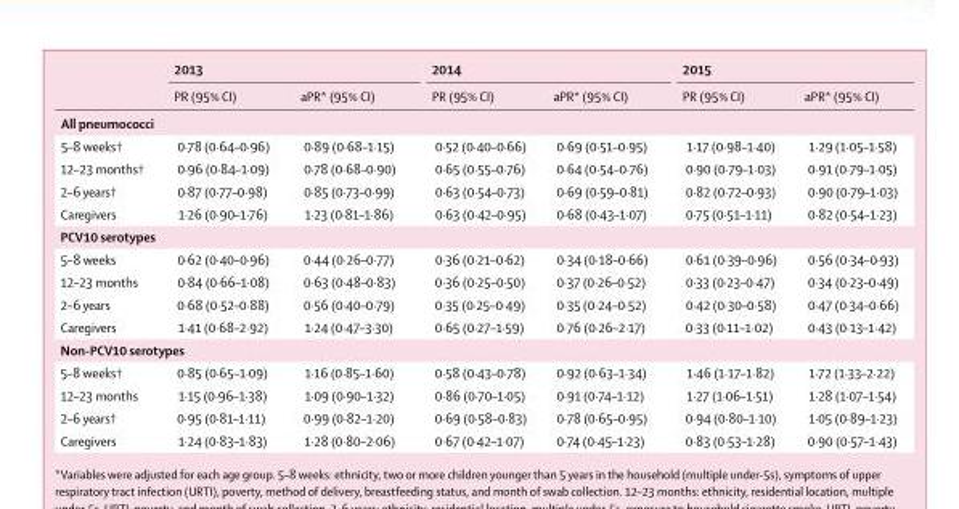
<table><thead><tr><td rowspan="2"></td><td colspan="2">2013</td><td colspan="2">2014</td><td colspan="2">2015</td></tr><tr><td>PR (95% CI)</td><td>aPR* (95% CI)</td><td>PR (95% CI)</td><td>aPR* (95% CI)</td><td>PR (95% CI)</td><td>aPR* (95% CI)</td></tr></thead><tbody><tr><td colspan="7">All pneumococci</td></tr><tr><td>5–8 weeks†</td><td>0·78 (0·64–0·96)</td><td>0·89 (0·68–1·15)</td><td>0·52 (0·40–0·66)</td><td>0·69 (0·51–0·95)</td><td>1·17 (0·98–1·40)</td><td>1·29 (1·05–1·58)</td></tr><tr><td>12–23 months†</td><td>0·96 (0·84–1·09)</td><td>0·78 (0·68–0·90)</td><td>0·65 (0·55–0·76)</td><td>0·64 (0·54–0·76)</td><td>0·90 (0·79–1·03)</td><td>0·91 (0·79–1·05)</td></tr><tr><td>2–6 years†</td><td>0·87 (0·77–0·98)</td><td>0·85 (0·73–0·99)</td><td>0·63 (0·54–0·73)</td><td>0·69 (0·59–0·81)</td><td>0·82 (0·72–0·93)</td><td>0·90 (0·79–1·03)</td></tr><tr><td>Caregivers</td><td>1·26 (0·90–1·76)</td><td>1·23 (0·81–1·86)</td><td>0·63 (0·42–0·95)</td><td>0·68 (0·43–1·07)</td><td>0·75 (0·51–1·11)</td><td>0·82 (0·54–1·23)</td></tr><tr><td colspan="7">PCV10 serotypes</td></tr><tr><td>5–8 weeks</td><td>0·62 (0·40–0·96)</td><td>0·44 (0·26–0·77)</td><td>0·36 (0·21–0·62)</td><td>0·34 (0·18–0·66)</td><td>0·61 (0·39–0·96)</td><td>0·56 (0·34–0·93)</td></tr><tr><td>12–23 months</td><td>0·84 (0·66–1·08)</td><td>0·63 (0·48–0·83)</td><td>0·36 (0·25–0·50)</td><td>0·37 (0·26–0·52)</td><td>0·33 (0·23–0·47)</td><td>0·34 (0·23–0·49)</td></tr><tr><td>2–6 years</td><td>0·68 (0·52–0·88)</td><td>0·56 (0·40–0·79)</td><td>0·35 (0·25–0·49)</td><td>0·35 (0·24–0·52)</td><td>0·42 (0·30–0·58)</td><td>0·47 (0·34–0·66)</td></tr><tr><td>Caregivers</td><td>1·41 (0·68–2·92)</td><td>1·24 (0·47–3·30)</td><td>0·65 (0·27–1·59)</td><td>0·76 (0·26–2·17)</td><td>0·33 (0·11–1·02)</td><td>0·43 (0·13–1·42)</td></tr><tr><td colspan="7">Non-PCV10 serotypes</td></tr><tr><td>5–8 weeks†</td><td>0·85 (0·65–1·09)</td><td>1·16 (0·85–1·60)</td><td>0·58 (0·43–0·78)</td><td>0·92 (0·63–1·34)</td><td>1·46 (1·17–1·82)</td><td>1·72 (1·33–2·22)</td></tr><tr><td>12–23 months</td><td>1·15 (0·96–1·38)</td><td>1·09 (0·90–1·32)</td><td>0·86 (0·70–1·05)</td><td>0·91 (0·74–1·12)</td><td>1·27 (1·06–1·51)</td><td>1·28 (1·07–1·54)</td></tr><tr><td>2–6 years†</td><td>0·95 (0·81–1·11)</td><td>0·99 (0·82–1·20)</td><td>0·69 (0·58–0·83)</td><td>0·78 (0·65–0·95)</td><td>0·94 (0·80–1·10)</td><td>1·05 (0·89–1·23)</td></tr><tr><td>Caregivers</td><td>1·24 (0·83–1·83)</td><td>1·28 (0·80–2·06)</td><td>0·67 (0·42–1·07)</td><td>0·74 (0·45–1·23)</td><td>0·83 (0·53–1·28)</td><td>0·90 (0·57–1·43)</td></tr></tbody></table>